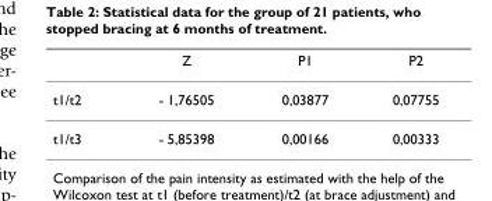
<table><thead><tr><td></td><td>Z</td><td>P1</td><td>P2</td></tr></thead><tbody><tr><td>t1/t2</td><td>- 1,76505</td><td>0,03877</td><td>0,07755</td></tr><tr><td>t1/t3</td><td>- 5,85398</td><td>0,00166</td><td>0,00333</td></tr></tbody></table>